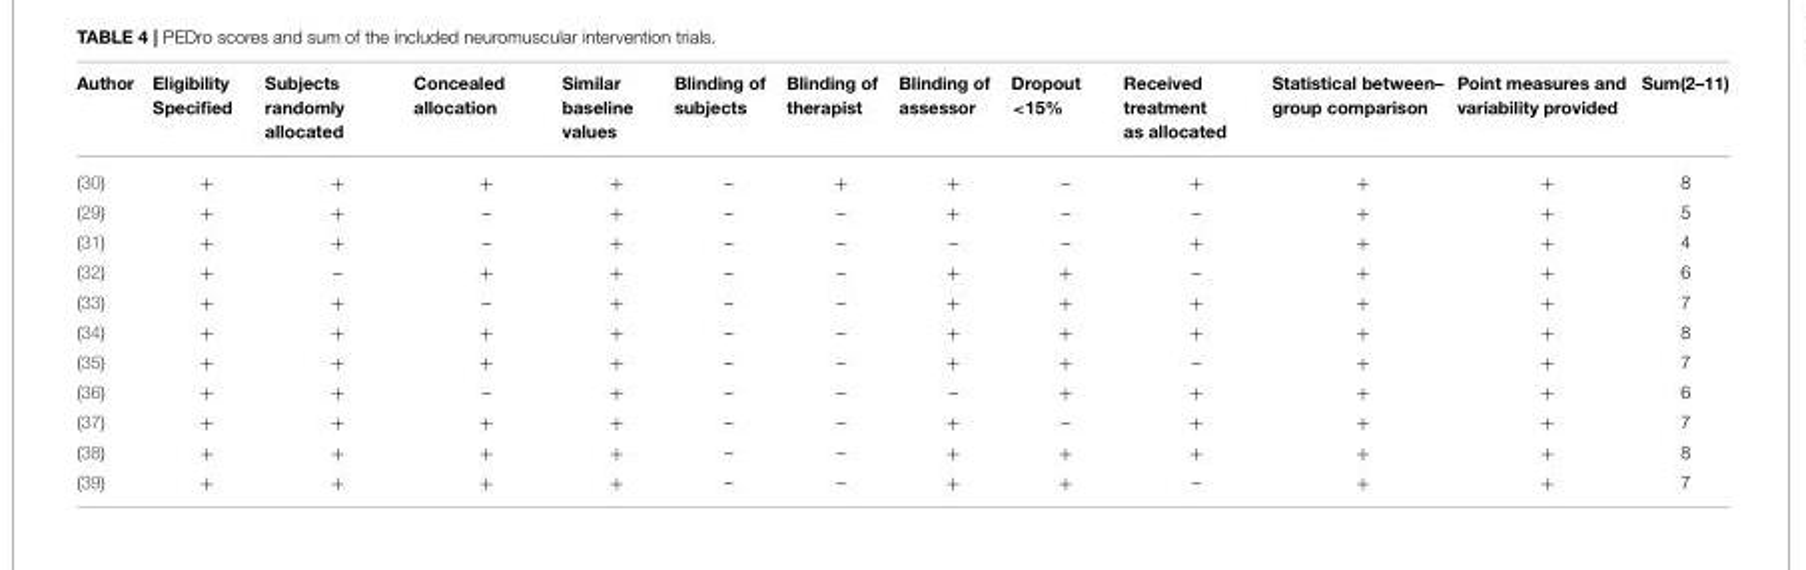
<table><thead><tr><td>Author</td><td>Eligibility Specified</td><td>Subjects randomly allocated</td><td>Concealed allocation</td><td>Similar baseline values</td><td>Blinding of subjects</td><td>Blinding of therapist</td><td>Blinding of assessor</td><td>Dropout &lt;15%</td><td>Received treatment as allocated</td><td>Statistical between– group comparison</td><td>Point measures and variability provided</td><td>Sum(2–11)</td></tr></thead><tbody><tr><td>(30)</td><td>+</td><td>+</td><td>+</td><td>+</td><td>–</td><td>+</td><td>+</td><td>–</td><td>+</td><td>+</td><td>+</td><td>8</td></tr><tr><td>(29)</td><td>+</td><td>+</td><td>–</td><td>+</td><td>–</td><td>–</td><td>+</td><td>–</td><td>–</td><td>+</td><td>+</td><td>5</td></tr><tr><td>(31)</td><td>+</td><td>+</td><td>–</td><td>+</td><td>–</td><td>–</td><td>–</td><td>–</td><td>+</td><td>+</td><td>+</td><td>4</td></tr><tr><td>(32)</td><td>+</td><td>–</td><td>+</td><td>+</td><td>–</td><td>–</td><td>+</td><td>+</td><td>–</td><td>+</td><td>+</td><td>6</td></tr><tr><td>(33)</td><td>+</td><td>+</td><td>–</td><td>+</td><td>–</td><td>–</td><td>+</td><td>+</td><td>+</td><td>+</td><td>+</td><td>7</td></tr><tr><td>(34)</td><td>+</td><td>+</td><td>+</td><td>+</td><td>–</td><td>–</td><td>+</td><td>+</td><td>+</td><td>+</td><td>+</td><td>8</td></tr><tr><td>(35)</td><td>+</td><td>+</td><td>+</td><td>+</td><td>–</td><td>–</td><td>+</td><td>+</td><td>–</td><td>+</td><td>+</td><td>7</td></tr><tr><td>(36)</td><td>+</td><td>+</td><td>–</td><td>+</td><td>–</td><td>–</td><td>–</td><td>+</td><td>+</td><td>+</td><td>+</td><td>6</td></tr><tr><td>(37)</td><td>+</td><td>+</td><td>+</td><td>+</td><td>–</td><td>–</td><td>+</td><td>–</td><td>+</td><td>+</td><td>+</td><td>7</td></tr><tr><td>(38)</td><td>+</td><td>+</td><td>+</td><td>+</td><td>–</td><td>–</td><td>+</td><td>+</td><td>+</td><td>+</td><td>+</td><td>8</td></tr><tr><td>(39)</td><td>+</td><td>+</td><td>+</td><td>+</td><td>–</td><td>–</td><td>+</td><td>+</td><td>–</td><td>+</td><td>+</td><td>7</td></tr></tbody></table>